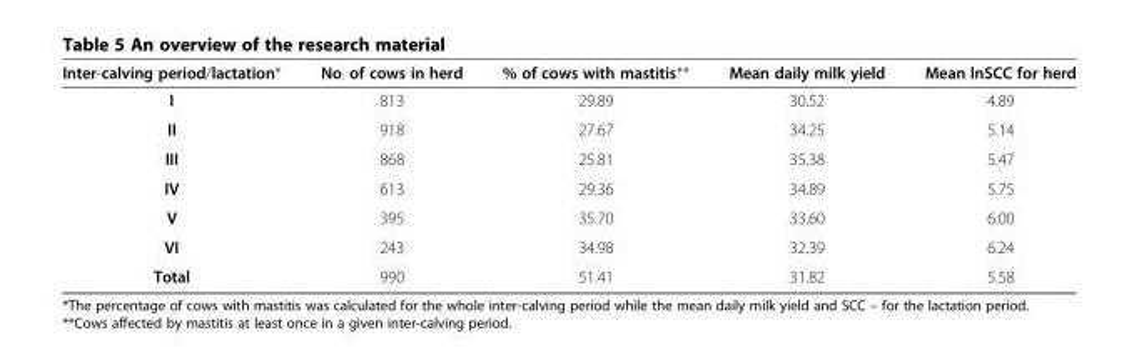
<table><thead><tr><td>Inter-calving period/lactation*</td><td>No. of cows in herd</td><td>% of cows with mastitis**</td><td>Mean daily milk yield</td><td>Mean lnSCC for herd</td></tr></thead><tbody><tr><td>I</td><td>813</td><td>29.89</td><td>30.52</td><td>4.89</td></tr><tr><td>II</td><td>918</td><td>27.67</td><td>34.25</td><td>5.14</td></tr><tr><td>III</td><td>868</td><td>25.81</td><td>35.38</td><td>5.47</td></tr><tr><td>IV</td><td>613</td><td>29.36</td><td>34.89</td><td>5.75</td></tr><tr><td>V</td><td>395</td><td>35.70</td><td>33.60</td><td>6.00</td></tr><tr><td>VI</td><td>243</td><td>34.98</td><td>32.39</td><td>6.24</td></tr><tr><td>Total</td><td>990</td><td>51.41</td><td>31.82</td><td>5.58</td></tr></tbody></table>